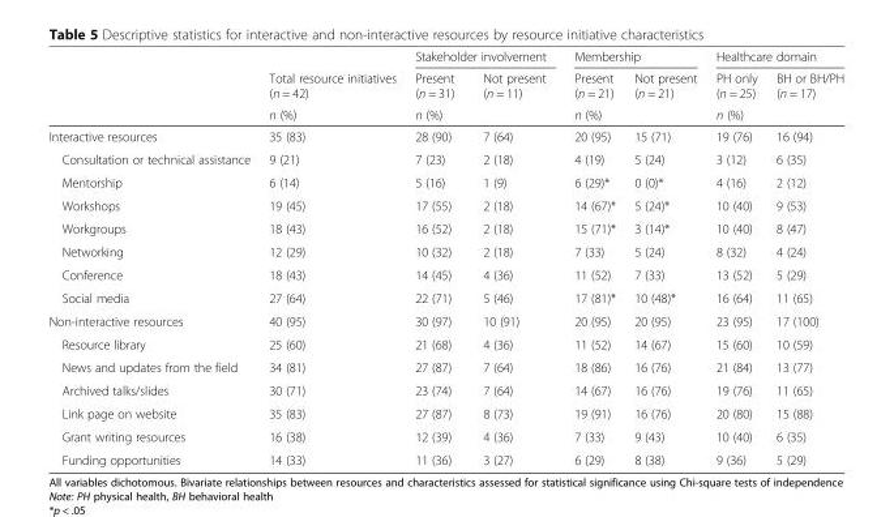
<table><thead><tr><td rowspan="3"></td><td rowspan="3">Total resource initiatives (n = 42) n (%)</td><td colspan="2">Stakeholder involvement</td><td colspan="2">Membership</td><td colspan="2">Healthcare domain</td></tr><tr><td>Present (n = 31)</td><td>Not present (n = 11)</td><td>Present (n = 21)</td><td>Not present (n = 21)</td><td>PH only (n = 25)</td><td>BH or BH/PH (n = 17)</td></tr><tr><td colspan="2">n (%)</td><td colspan="2">n (%)</td><td colspan="2">n (%)</td></tr></thead><tbody><tr><td>Interactive resources</td><td>35 (83)</td><td>28 (90)</td><td>7 (64)</td><td>20 (95)</td><td>15 (71)</td><td>19 (76)</td><td>16 (94)</td></tr><tr><td>Consultation or technical assistance</td><td>9 (21)</td><td>7 (23)</td><td>2 (18)</td><td>4 (19)</td><td>5 (24)</td><td>3 (12)</td><td>6 (35)</td></tr><tr><td>Mentorship</td><td>6 (14)</td><td>5 (16)</td><td>1 (9)</td><td>6 (29)*</td><td>0 (0)*</td><td>4 (16)</td><td>2 (12)</td></tr><tr><td>Workshops</td><td>19 (45)</td><td>17 (55)</td><td>2 (18)</td><td>14 (67)*</td><td>5 (24)*</td><td>10 (40)</td><td>9 (53)</td></tr><tr><td>Workgroups</td><td>18 (43)</td><td>16 (52)</td><td>2 (18)</td><td>15 (71)*</td><td>3 (14)*</td><td>10 (40)</td><td>8 (47)</td></tr><tr><td>Networking</td><td>12 (29)</td><td>10 (32)</td><td>2 (18)</td><td>7 (33)</td><td>5 (24)</td><td>8 (32)</td><td>4 (24)</td></tr><tr><td>Conference</td><td>18 (43)</td><td>14 (45)</td><td>4 (36)</td><td>11 (52)</td><td>7 (33)</td><td>13 (52)</td><td>5 (29)</td></tr><tr><td>Social media</td><td>27 (64)</td><td>22 (71)</td><td>5 (46)</td><td>17 (81)*</td><td>10 (48)*</td><td>16 (64)</td><td>11 (65)</td></tr><tr><td>Non-interactive resources</td><td>40 (95)</td><td>30 (97)</td><td>10 (91)</td><td>20 (95)</td><td>20 (95)</td><td>23 (95)</td><td>17 (100)</td></tr><tr><td>Resource library</td><td>25 (60)</td><td>21 (68)</td><td>4 (36)</td><td>11 (52)</td><td>14 (67)</td><td>15 (60)</td><td>10 (59)</td></tr><tr><td>News and updates from the field</td><td>34 (81)</td><td>27 (87)</td><td>7 (64)</td><td>18 (86)</td><td>16 (76)</td><td>21 (84)</td><td>13 (77)</td></tr><tr><td>Archived talks/slides</td><td>30 (71)</td><td>23 (74)</td><td>7 (64)</td><td>14 (67)</td><td>16 (76)</td><td>19 (76)</td><td>11 (65)</td></tr><tr><td>Link page on website</td><td>35 (83)</td><td>27 (87)</td><td>8 (73)</td><td>19 (91)</td><td>16 (76)</td><td>20 (80)</td><td>15 (88)</td></tr><tr><td>Grant writing resources</td><td>16 (38)</td><td>12 (39)</td><td>4 (36)</td><td>7 (33)</td><td>9 (43)</td><td>10 (40)</td><td>6 (35)</td></tr><tr><td>Funding opportunities</td><td>14 (33)</td><td>11 (36)</td><td>3 (27)</td><td>6 (29)</td><td>8 (38)</td><td>9 (36)</td><td>5 (29)</td></tr></tbody></table>